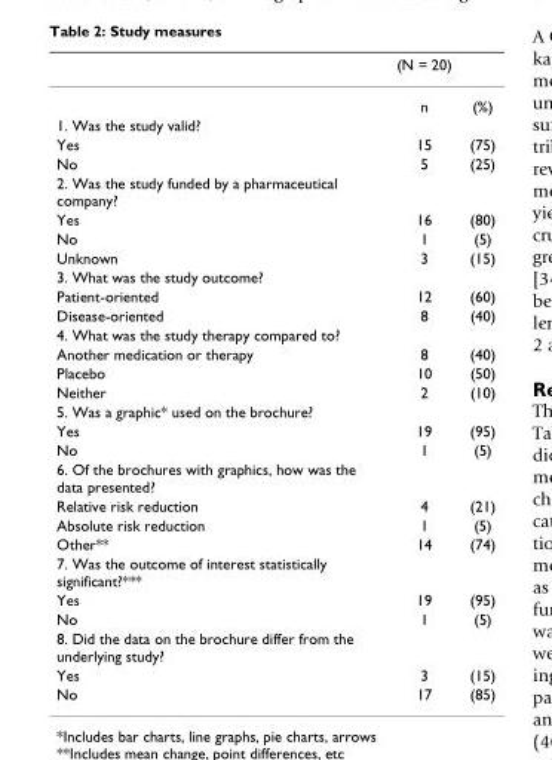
<table><thead><tr><td></td><td>(N = 20)</td><td></td></tr></thead><tbody><tr><td></td><td>n</td><td>(%)</td></tr><tr><td colspan="3">1. Was the study valid?</td></tr><tr><td>Yes</td><td>15</td><td>(75)</td></tr><tr><td>No</td><td>5</td><td>(25)</td></tr><tr><td colspan="3">2. Was the study funded by a pharmaceutical company?</td></tr><tr><td>Yes</td><td>16</td><td>(80)</td></tr><tr><td>No</td><td>1</td><td>(5)</td></tr><tr><td>Unknown</td><td>3</td><td>(15)</td></tr><tr><td colspan="3">3. What was the study outcome?</td></tr><tr><td>Patient-oriented</td><td>12</td><td>(60)</td></tr><tr><td>Disease-oriented</td><td>8</td><td>(40)</td></tr><tr><td colspan="3">4. What was the study therapy compared to?</td></tr><tr><td>Another medication or therapy</td><td>8</td><td>(40)</td></tr><tr><td>Placebo</td><td>10</td><td>(50)</td></tr><tr><td>Neither</td><td>2</td><td>(10)</td></tr><tr><td colspan="3">5. Was a graphic* used on the brochure?</td></tr><tr><td>Yes</td><td>19</td><td>(95)</td></tr><tr><td>No</td><td>1</td><td>(5)</td></tr><tr><td colspan="3">6. Of the brochures with graphics, how was the data presented?</td></tr><tr><td>Relative risk reduction</td><td>4</td><td>(21)</td></tr><tr><td>Absolute risk reduction</td><td>1</td><td>(5)</td></tr><tr><td>Other**</td><td>14</td><td>(74)</td></tr><tr><td colspan="3">7. Was the outcome of interest statistically significant?***</td></tr><tr><td>Yes</td><td>19</td><td>(95)</td></tr><tr><td>No</td><td>1</td><td>(5)</td></tr><tr><td colspan="3">8. Did the data on the brochure differ from the underlying study?</td></tr><tr><td>Yes</td><td>3</td><td>(15)</td></tr><tr><td>No</td><td>17</td><td>(85)</td></tr></tbody></table>